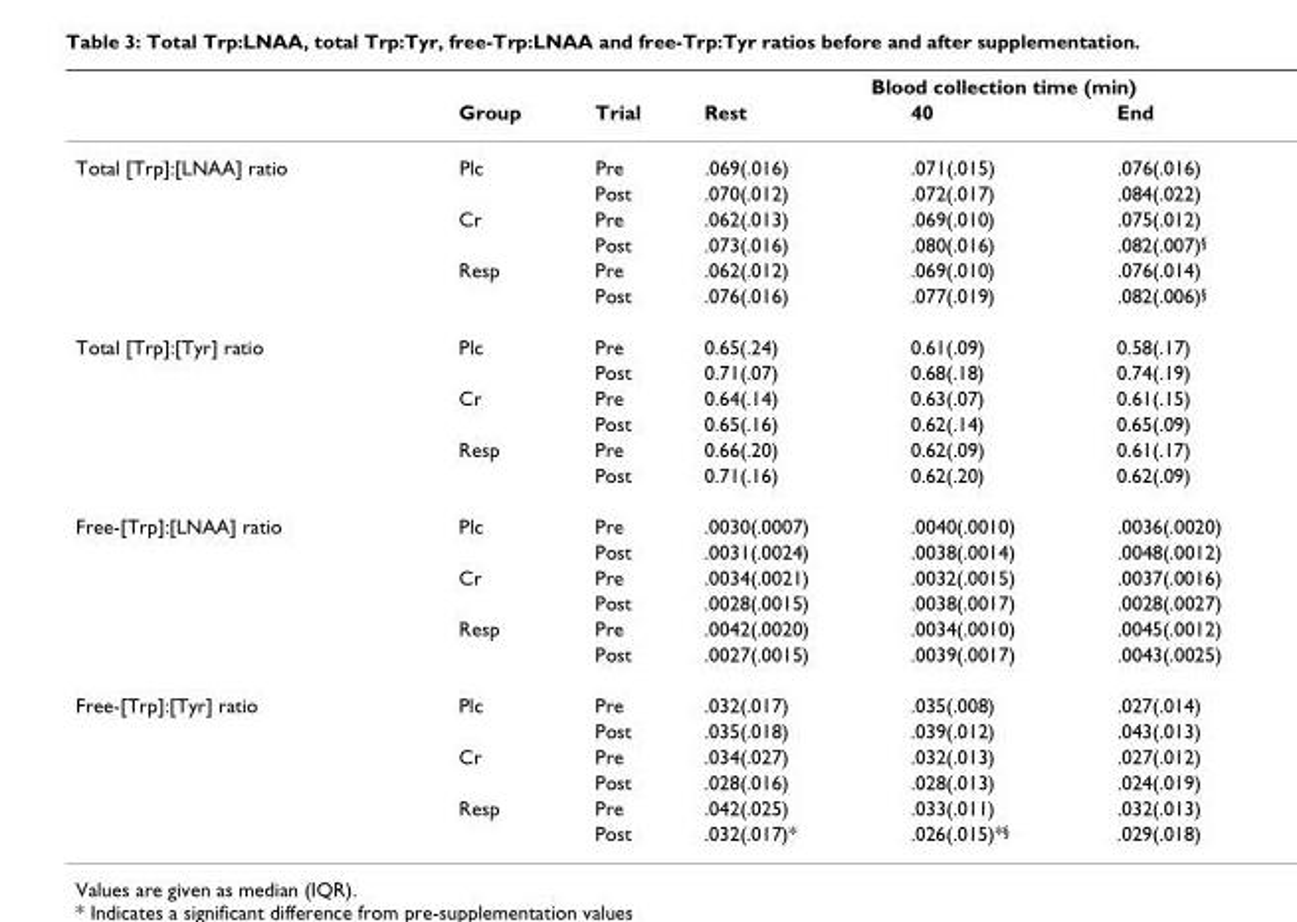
<table><thead><tr><td rowspan="2"></td><td rowspan="2">Group</td><td rowspan="2">Trial</td><td colspan="3">Blood collection time (min)</td></tr><tr><td>Rest</td><td>40</td><td>End</td></tr></thead><tbody><tr><td rowspan="6">Total [Trp]:[LNAA] ratio</td><td>Plc</td><td>Pre</td><td>.069(.016)</td><td>.071(.015)</td><td>.076(.016)</td></tr><tr><td></td><td>Post</td><td>.070(.012)</td><td>.072(.017)</td><td>.084(.022)</td></tr><tr><td>Cr</td><td>Pre</td><td>.062(.013)</td><td>.069(.010)</td><td>.075(.012)</td></tr><tr><td></td><td>Post</td><td>.073(.016)</td><td>.080(.016)</td><td>.082(.007)<sup>§</sup></td></tr><tr><td>Resp</td><td>Pre</td><td>.062(.012)</td><td>.069(.010)</td><td>.076(.014)</td></tr><tr><td></td><td>Post</td><td>.076(.016)</td><td>.077(.019)</td><td>.082(.006)<sup>§</sup></td></tr><tr><td rowspan="6">Total [Trp]:[Tyr] ratio</td><td>Plc</td><td>Pre</td><td>0.65(.24)</td><td>0.61(.09)</td><td>0.58(.17)</td></tr><tr><td></td><td>Post</td><td>0.71(.07)</td><td>0.68(.18)</td><td>0.74(.19)</td></tr><tr><td>Cr</td><td>Pre</td><td>0.64(.14)</td><td>0.63(.07)</td><td>0.61(.15)</td></tr><tr><td></td><td>Post</td><td>0.65(.16)</td><td>0.62(.14)</td><td>0.65(.09)</td></tr><tr><td>Resp</td><td>Pre</td><td>0.66(.20)</td><td>0.62(.09)</td><td>0.61(.17)</td></tr><tr><td></td><td>Post</td><td>0.71(.16)</td><td>0.62(.20)</td><td>0.62(.09)</td></tr><tr><td rowspan="6">Free-[Trp]:[LNAA] ratio</td><td>Plc</td><td>Pre</td><td>.0030(.0007)</td><td>.0040(.0010)</td><td>.0036(.0020)</td></tr><tr><td></td><td>Post</td><td>.0031(.0024)</td><td>.0038(.0014)</td><td>.0048(.0012)</td></tr><tr><td>Cr</td><td>Pre</td><td>.0034(.0021)</td><td>.0032(.0015)</td><td>.0037(.0016)</td></tr><tr><td></td><td>Post</td><td>.0028(.0015)</td><td>.0038(.0017)</td><td>.0028(.0027)</td></tr><tr><td>Resp</td><td>Pre</td><td>.0042(.0020)</td><td>.0034(.0010)</td><td>.0045(.0012)</td></tr><tr><td></td><td>Post</td><td>.0027(.0015)</td><td>.0039(.0017)</td><td>.0043(.0025)</td></tr><tr><td rowspan="6">Free-[Trp]:[Tyr] ratio</td><td>Plc</td><td>Pre</td><td>.032(.017)</td><td>.035(.008)</td><td>.027(.014)</td></tr><tr><td></td><td>Post</td><td>.035(.018)</td><td>.039(.012)</td><td>.043(.013)</td></tr><tr><td>Cr</td><td>Pre</td><td>.034(.027)</td><td>.032(.013)</td><td>.027(.012)</td></tr><tr><td></td><td>Post</td><td>.028(.016)</td><td>.028(.013)</td><td>.024(.019)</td></tr><tr><td>Resp</td><td>Pre</td><td>.042(.025)</td><td>.033(.011)</td><td>.032(.013)</td></tr><tr><td></td><td>Post</td><td>.032(.017)*</td><td>.026(.015)*<sup>§</sup></td><td>.029(.018)</td></tr></tbody></table>